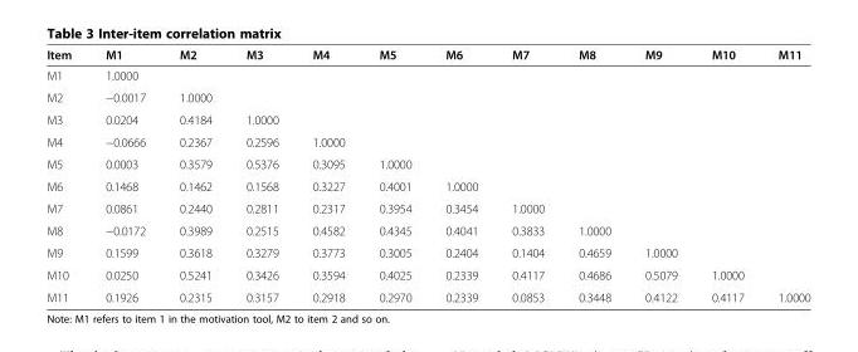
<table><thead><tr><td>Item</td><td>M1</td><td>M2</td><td>M3</td><td>M4</td><td>M5</td><td>M6</td><td>M7</td><td>M8</td><td>M9</td><td>M10</td><td>M11</td></tr></thead><tbody><tr><td>M1</td><td>1.0000</td><td></td><td></td><td></td><td></td><td></td><td></td><td></td><td></td><td></td><td></td></tr><tr><td>M2</td><td>−0.0017</td><td>1.0000</td><td></td><td></td><td></td><td></td><td></td><td></td><td></td><td></td><td></td></tr><tr><td>M3</td><td>0.0204</td><td>0.4184</td><td>1.0000</td><td></td><td></td><td></td><td></td><td></td><td></td><td></td><td></td></tr><tr><td>M4</td><td>−0.0666</td><td>0.2367</td><td>0.2596</td><td>1.0000</td><td></td><td></td><td></td><td></td><td></td><td></td><td></td></tr><tr><td>M5</td><td>0.0003</td><td>0.3579</td><td>0.5376</td><td>0.3095</td><td>1.0000</td><td></td><td></td><td></td><td></td><td></td><td></td></tr><tr><td>M6</td><td>0.1468</td><td>0.1462</td><td>0.1568</td><td>0.3227</td><td>0.4001</td><td>1.0000</td><td></td><td></td><td></td><td></td><td></td></tr><tr><td>M7</td><td>0.0861</td><td>0.2440</td><td>0.2811</td><td>0.2317</td><td>0.3954</td><td>0.3454</td><td>1.0000</td><td></td><td></td><td></td><td></td></tr><tr><td>M8</td><td>−0.0172</td><td>0.3989</td><td>0.2515</td><td>0.4582</td><td>0.4345</td><td>0.4041</td><td>0.3833</td><td>1.0000</td><td></td><td></td><td></td></tr><tr><td>M9</td><td>0.1599</td><td>0.3618</td><td>0.3279</td><td>0.3773</td><td>0.3005</td><td>0.2404</td><td>0.1404</td><td>0.4659</td><td>1.0000</td><td></td><td></td></tr><tr><td>M10</td><td>0.0250</td><td>0.5241</td><td>0.3426</td><td>0.3594</td><td>0.4025</td><td>0.2339</td><td>0.4117</td><td>0.4686</td><td>0.5079</td><td>1.0000</td><td></td></tr><tr><td>M11</td><td>0.1926</td><td>0.2315</td><td>0.3157</td><td>0.2918</td><td>0.2970</td><td>0.2339</td><td>0.0853</td><td>0.3448</td><td>0.4122</td><td>0.4117</td><td>1.0000</td></tr></tbody></table>